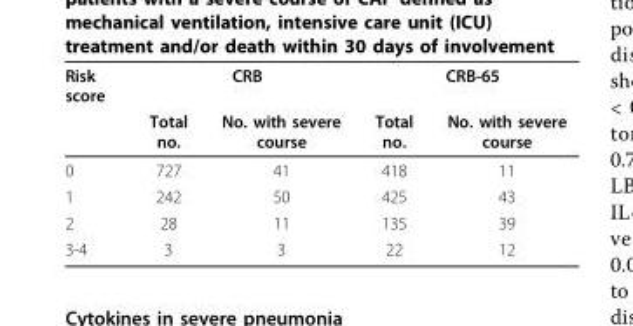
<table><thead><tr><td rowspan="2">Risk score</td><td colspan="2">CRB</td><td colspan="2">CRB-65</td></tr><tr><td>Total no.</td><td>No. with severe course</td><td>Total no.</td><td>No. with severe course</td></tr></thead><tbody><tr><td>0</td><td>727</td><td>41</td><td>418</td><td>11</td></tr><tr><td>1</td><td>242</td><td>50</td><td>425</td><td>43</td></tr><tr><td>2</td><td>28</td><td>11</td><td>135</td><td>39</td></tr><tr><td>3-4</td><td>3</td><td>3</td><td>22</td><td>12</td></tr></tbody></table>